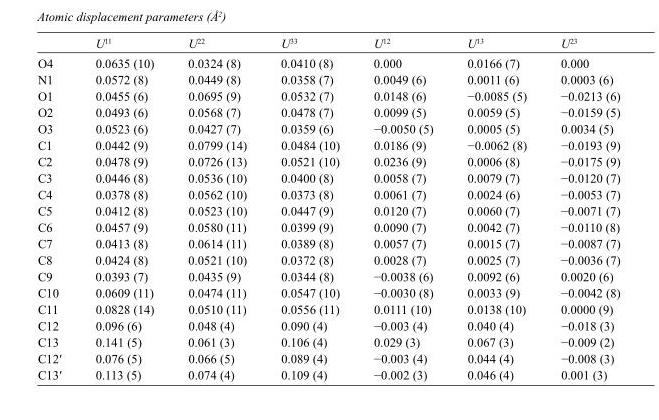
<table><thead><tr><td></td><td>U<sup>11</sup></td><td>U<sup>22</sup></td><td>U<sup>33</sup></td><td>U<sup>12</sup></td><td>U<sup>13</sup></td><td>U<sup>23</sup></td></tr></thead><tbody><tr><td>O4</td><td>0.0635 (10)</td><td>0.0324 (8)</td><td>0.0410 (8)</td><td>0.000</td><td>0.0166 (7)</td><td>0.000</td></tr><tr><td>N1</td><td>0.0572 (8)</td><td>0.0449 (8)</td><td>0.0358 (7)</td><td>0.0049 (6)</td><td>0.0011 (6)</td><td>0.0003 (6)</td></tr><tr><td>O1</td><td>0.0455 (6)</td><td>0.0695 (9)</td><td>0.0532 (7)</td><td>0.0148 (6)</td><td>−0.0085 (5)</td><td>−0.0213 (6)</td></tr><tr><td>O2</td><td>0.0493 (6)</td><td>0.0568 (7)</td><td>0.0478 (7)</td><td>0.0099 (5)</td><td>0.0059 (5)</td><td>−0.0159 (5)</td></tr><tr><td>O3</td><td>0.0523 (6)</td><td>0.0427 (7)</td><td>0.0359 (6)</td><td>−0.0050 (5)</td><td>0.0005 (5)</td><td>0.0034 (5)</td></tr><tr><td>C1</td><td>0.0442 (9)</td><td>0.0799 (14)</td><td>0.0484 (10)</td><td>0.0186 (9)</td><td>−0.0062 (8)</td><td>−0.0193 (9)</td></tr><tr><td>C2</td><td>0.0478 (9)</td><td>0.0726 (13)</td><td>0.0521 (10)</td><td>0.0236 (9)</td><td>0.0006 (8)</td><td>−0.0175 (9)</td></tr><tr><td>C3</td><td>0.0446 (8)</td><td>0.0536 (10)</td><td>0.0400 (8)</td><td>0.0058 (7)</td><td>0.0079 (7)</td><td>−0.0120 (7)</td></tr><tr><td>C4</td><td>0.0378 (8)</td><td>0.0562 (10)</td><td>0.0373 (8)</td><td>0.0061 (7)</td><td>0.0024 (6)</td><td>−0.0053 (7)</td></tr><tr><td>C5</td><td>0.0412 (8)</td><td>0.0523 (10)</td><td>0.0447 (9)</td><td>0.0120 (7)</td><td>0.0060 (7)</td><td>−0.0071 (7)</td></tr><tr><td>C6</td><td>0.0457 (9)</td><td>0.0580 (11)</td><td>0.0399 (9)</td><td>0.0090 (7)</td><td>0.0042 (7)</td><td>−0.0110 (8)</td></tr><tr><td>C7</td><td>0.0413 (8)</td><td>0.0614 (11)</td><td>0.0389 (8)</td><td>0.0057 (7)</td><td>0.0015 (7)</td><td>−0.0087 (7)</td></tr><tr><td>C8</td><td>0.0424 (8)</td><td>0.0521 (10)</td><td>0.0372 (8)</td><td>0.0028 (7)</td><td>0.0025 (7)</td><td>−0.0036 (7)</td></tr><tr><td>C9</td><td>0.0393 (7)</td><td>0.0435 (9)</td><td>0.0344 (8)</td><td>−0.0038 (6)</td><td>0.0092 (6)</td><td>0.0020 (6)</td></tr><tr><td>C10</td><td>0.0609 (11)</td><td>0.0474 (11)</td><td>0.0547 (10)</td><td>−0.0030 (8)</td><td>0.0033 (9)</td><td>−0.0042 (8)</td></tr><tr><td>C11</td><td>0.0828 (14)</td><td>0.0510 (11)</td><td>0.0556 (11)</td><td>0.0111 (10)</td><td>0.0138 (10)</td><td>0.0000 (9)</td></tr><tr><td>C12</td><td>0.096 (6)</td><td>0.048 (4)</td><td>0.090 (4)</td><td>−0.003 (4)</td><td>0.040 (4)</td><td>−0.018 (3)</td></tr><tr><td>C13</td><td>0.141 (5)</td><td>0.061 (3)</td><td>0.106 (4)</td><td>0.029 (3)</td><td>0.067 (3)</td><td>−0.009 (2)</td></tr><tr><td>C12′</td><td>0.076 (5)</td><td>0.066 (5)</td><td>0.089 (4)</td><td>−0.003 (4)</td><td>0.044 (4)</td><td>−0.008 (3)</td></tr><tr><td>C13′</td><td>0.113 (5)</td><td>0.074 (4)</td><td>0.109 (4)</td><td>−0.002 (3)</td><td>0.046 (4)</td><td>0.001 (3)</td></tr></tbody></table>